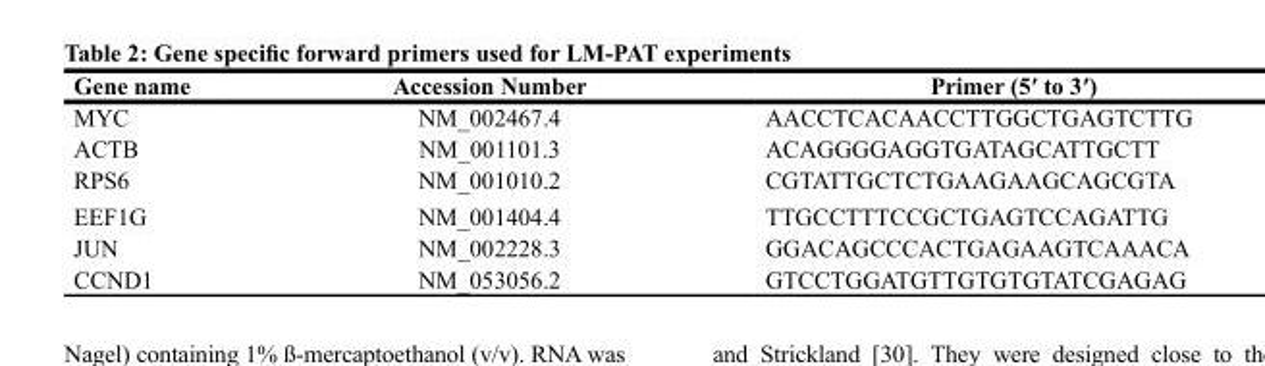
<table><thead><tr><td>Gene name</td><td>Accession Number</td><td>Primer (5ʹ to 3ʹ)</td></tr></thead><tbody><tr><td>MYC</td><td>NM_002467.4</td><td>AACCTCACAACCTTGGCTGAGTCTTG</td></tr><tr><td>ACTB</td><td>NM_001101.3</td><td>ACAGGGGAGGTGATAGCATTGCTT</td></tr><tr><td>RPS6</td><td>NM_001010.2</td><td>CGTATTGCTCTGAAGAAGCAGCGTA</td></tr><tr><td>EEF1G</td><td>NM_001404.4</td><td>TTGCCTTTCCGCTGAGTCCAGATTG</td></tr><tr><td>JUN</td><td>NM_002228.3</td><td>GGACAGCCCACTGAGAAGTCAAACA</td></tr><tr><td>CCND1</td><td>NM_053056.2</td><td>GTCCTGGATGTTGTGTGTATCGAGAG</td></tr></tbody></table>